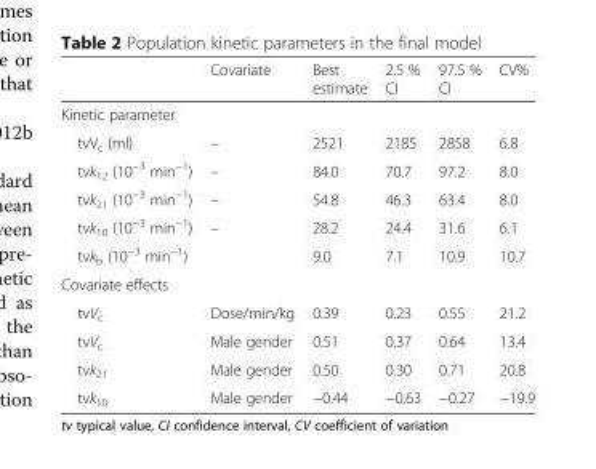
<table><thead><tr><td></td><td>Covariate</td><td>Best estimate</td><td>2.5 % CI</td><td>97.5 % CI</td><td>CV%</td></tr></thead><tbody><tr><td colspan="6">Kinetic parameter</td></tr><tr><td>tvV<sub>c</sub> (ml)</td><td>–</td><td>2521</td><td>2185</td><td>2858</td><td>6.8</td></tr><tr><td>tvk<sub>12</sub> (10<sup>−3</sup> min<sup>−1</sup>)</td><td>–</td><td>84.0</td><td>70.7</td><td>97.2</td><td>8.0</td></tr><tr><td>tvk<sub>21</sub> (10<sup>−3</sup> min<sup>−1</sup>)</td><td>–</td><td>54.8</td><td>46.3</td><td>63.4</td><td>8.0</td></tr><tr><td>tvk<sub>10</sub> (10<sup>−3</sup> min<sup>−1</sup>)</td><td>–</td><td>28.2</td><td>24.4</td><td>31.6</td><td>6.1</td></tr><tr><td>tvk<sub>b</sub> (10<sup>−3</sup> min<sup>−1</sup>)</td><td></td><td>9.0</td><td>7.1</td><td>10.9</td><td>10.7</td></tr><tr><td colspan="6">Covariate effects</td></tr><tr><td>tvV<sub>c</sub></td><td>Dose/min/kg</td><td>0.39</td><td>0.23</td><td>0.55</td><td>21.2</td></tr><tr><td>tvV<sub>c</sub></td><td>Male gender</td><td>0.51</td><td>0.37</td><td>0.64</td><td>13.4</td></tr><tr><td>tvk<sub>21</sub></td><td>Male gender</td><td>0.50</td><td>0.30</td><td>0.71</td><td>20.8</td></tr><tr><td>tvk<sub>10</sub></td><td>Male gender</td><td>−0.44</td><td>−0.63</td><td>−0.27</td><td>−19.9</td></tr></tbody></table>